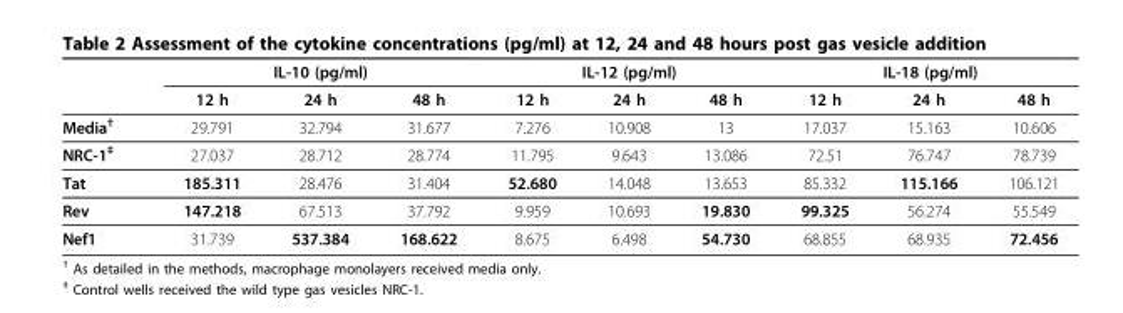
<table><thead><tr><td rowspan="2"></td><td colspan="3">IL-10 (pg/ml)</td><td colspan="3">IL-12 (pg/ml)</td><td colspan="3">IL-18 (pg/ml)</td></tr><tr><td>12 h</td><td>24 h</td><td>48 h</td><td>12 h</td><td>24 h</td><td>48 h</td><td>12 h</td><td>24 h</td><td>48 h</td></tr></thead><tbody><tr><td>Media<sup>†</sup></td><td>29.791</td><td>32.794</td><td>31.677</td><td>7.276</td><td>10.908</td><td>13</td><td>17.037</td><td>15.163</td><td>10.606</td></tr><tr><td>NRC-1<sup>‡</sup></td><td>27.037</td><td>28.712</td><td>28.774</td><td>11.795</td><td>9.643</td><td>13.086</td><td>72.51</td><td>76.747</td><td>78.739</td></tr><tr><td>Tat</td><td>185.311</td><td>28.476</td><td>31.404</td><td>52.680</td><td>14.048</td><td>13.653</td><td>85.332</td><td>115.166</td><td>106.121</td></tr><tr><td>Rev</td><td>147.218</td><td>67.513</td><td>37.792</td><td>9.959</td><td>10.693</td><td>19.830</td><td>99.325</td><td>56.274</td><td>55.549</td></tr><tr><td>Nef1</td><td>31.739</td><td>537.384</td><td>168.622</td><td>8.675</td><td>6.498</td><td>54.730</td><td>68.855</td><td>68.935</td><td>72.456</td></tr></tbody></table>